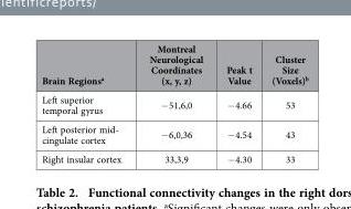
<table><thead><tr><td>Brain Regions<sup>a</sup></td><td>Montreal Neurological Coordinates (x, y, z)</td><td>Peak t Value</td><td>Cluster Size (Voxels)<sup>b</sup></td></tr></thead><tbody><tr><td>Left superior temporal gyrus</td><td>− 51,6,0</td><td>− 4.66</td><td>53</td></tr><tr><td>Left posterior mid- cingulate cortex</td><td>− 6,0,36</td><td>− 4.54</td><td>43</td></tr><tr><td>Right insular cortex</td><td>33,3,9</td><td>− 4.30</td><td>33</td></tr></tbody></table>